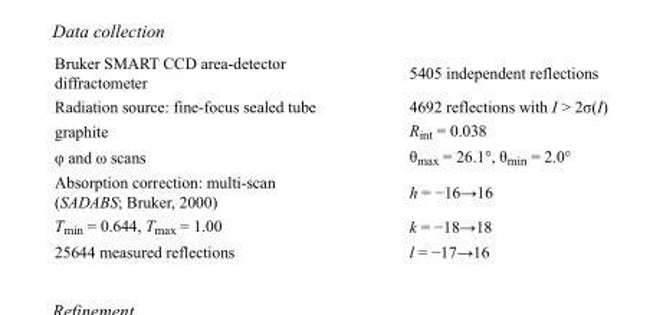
<table><tbody><tr><td>Bruker SMART CCD area-detector diffractometer</td><td>5405 independent reflections</td></tr><tr><td>Radiation source: fine-focus sealed tube</td><td>4692 reflections with I &gt; 2σ(I)</td></tr><tr><td>graphite</td><td>R<sub>int</sub> = 0.038</td></tr><tr><td>φ and ω scans</td><td>θ<sub>max</sub> = 26.1°, θ<sub>min</sub> = 2.0°</td></tr><tr><td>Absorption correction: multi-scan (SADABS; Bruker, 2000)</td><td>h = −16→16</td></tr><tr><td>T<sub>min</sub> = 0.644, T<sub>max</sub> = 1.00</td><td>k = −18→18</td></tr><tr><td>25644 measured reflections</td><td>l = −17→16</td></tr></tbody></table>